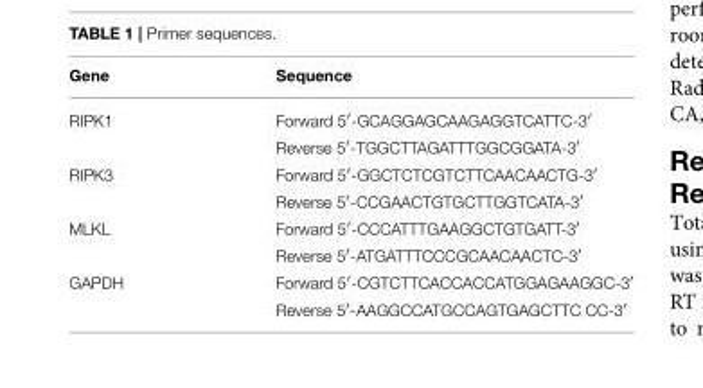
<table><thead><tr><td>Gene</td><td>Sequence</td></tr></thead><tbody><tr><td rowspan="2">RIPK1</td><td>Forward 5′-GCAGGAGCAAGAGGTCATTC-3′</td></tr><tr><td>Reverse 5′-TGGCTTAGATTTGGCGGATA-3′</td></tr><tr><td rowspan="2">RIPK3</td><td>Forward 5′-GGCTCTCGTCTTCAACAACTG-3′</td></tr><tr><td>Reverse 5′-CCGAACTGTGCTTGGTCATA-3′</td></tr><tr><td rowspan="2">MLKL</td><td>Forward 5′-CCCATTTGAAGGCTGTGATT-3′</td></tr><tr><td>Reverse 5′-ATGATTTCCCGCAACAACTC-3′</td></tr><tr><td rowspan="2">GAPDH</td><td>Forward 5′-CGTCTTCACCACCATGGAGAAGGC-3′</td></tr><tr><td>Reverse 5′-AAGGCCATGCCAGTGAGCTTC CC-3′</td></tr></tbody></table>